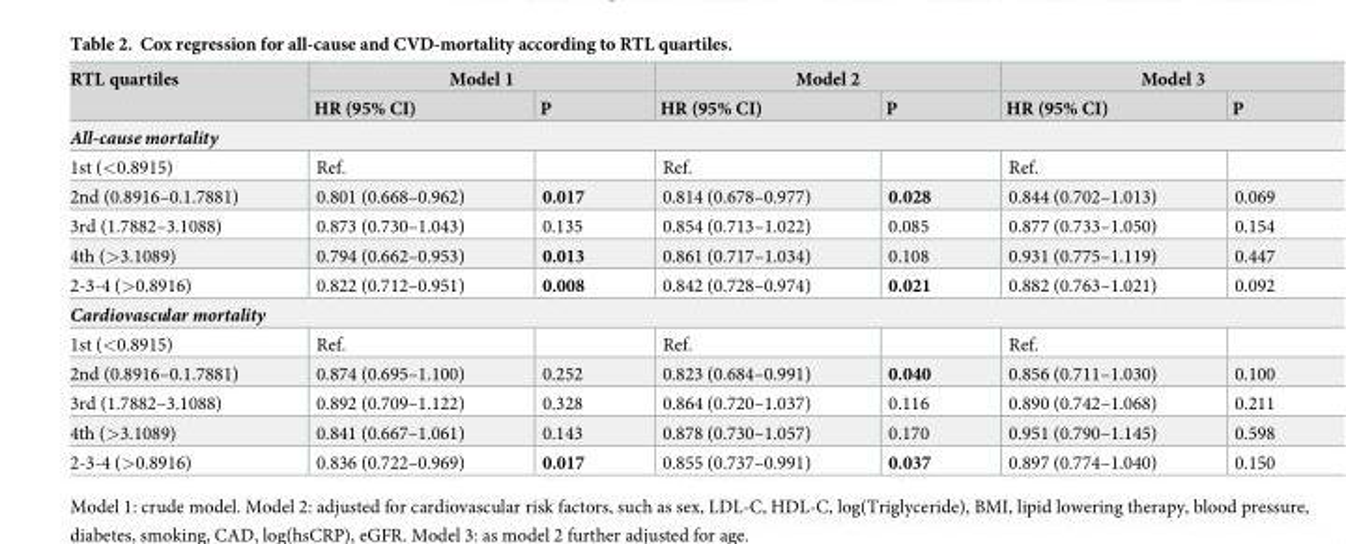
<table><thead><tr><td rowspan="2">RTL quartiles</td><td colspan="2">Model 1</td><td colspan="2">Model 2</td><td colspan="2">Model 3</td></tr><tr><td>HR (95% CI)</td><td>P</td><td>HR (95% CI)</td><td>P</td><td>HR (95% CI)</td><td>P</td></tr></thead><tbody><tr><td colspan="7">All-cause mortality</td></tr><tr><td>1st (&lt;0.8915)</td><td>Ref.</td><td></td><td>Ref.</td><td></td><td>Ref.</td><td></td></tr><tr><td>2nd (0.8916–0.1.7881)</td><td>0.801 (0.668–0.962)</td><td>0.017</td><td>0.814 (0.678–0.977)</td><td>0.028</td><td>0.844 (0.702–1.013)</td><td>0.069</td></tr><tr><td>3rd (1.7882–3.1088)</td><td>0.873 (0.730–1.043)</td><td>0.135</td><td>0.854 (0.713–1.022)</td><td>0.085</td><td>0.877 (0.733–1.050)</td><td>0.154</td></tr><tr><td>4th (&gt;3.1089)</td><td>0.794 (0.662–0.953)</td><td>0.013</td><td>0.861 (0.717–1.034)</td><td>0.108</td><td>0.931 (0.775–1.119)</td><td>0.447</td></tr><tr><td>2-3-4 (&gt;0.8916)</td><td>0.822 (0.712–0.951)</td><td>0.008</td><td>0.842 (0.728–0.974)</td><td>0.021</td><td>0.882 (0.763–1.021)</td><td>0.092</td></tr><tr><td colspan="7">Cardiovascular mortality</td></tr><tr><td>1st (&lt;0.8915)</td><td>Ref.</td><td></td><td>Ref.</td><td></td><td>Ref.</td><td></td></tr><tr><td>2nd (0.8916–0.1.7881)</td><td>0.874 (0.695–1.100)</td><td>0.252</td><td>0.823 (0.684–0.991)</td><td>0.040</td><td>0.856 (0.711–1.030)</td><td>0.100</td></tr><tr><td>3rd (1.7882–3.1088)</td><td>0.892 (0.709–1.122)</td><td>0.328</td><td>0.864 (0.720–1.037)</td><td>0.116</td><td>0.890 (0.742–1.068)</td><td>0.211</td></tr><tr><td>4th (&gt;3.1089)</td><td>0.841 (0.667–1.061)</td><td>0.143</td><td>0.878 (0.730–1.057)</td><td>0.170</td><td>0.951 (0.790–1.145)</td><td>0.598</td></tr><tr><td>2-3-4 (&gt;0.8916)</td><td>0.836 (0.722–0.969)</td><td>0.017</td><td>0.855 (0.737–0.991)</td><td>0.037</td><td>0.897 (0.774–1.040)</td><td>0.150</td></tr></tbody></table>